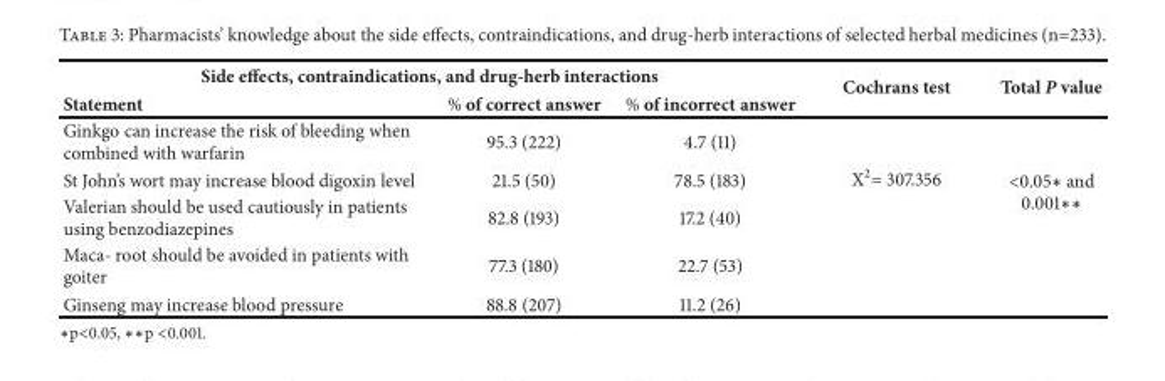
<table><thead><tr><td colspan="3">Side effects, contraindications, and drug-herb interactions</td><td rowspan="2">Cochrans test</td><td rowspan="2">Total P value</td></tr><tr><td>Statement</td><td>% of correct answer</td><td>% of incorrect answer</td></tr></thead><tbody><tr><td>Ginkgo can increase the risk of bleeding when combined with warfarin</td><td>95.3 (222)</td><td>4.7 (11)</td><td rowspan="4">X<sup>2</sup>= 307.356</td><td rowspan="5">&lt;0.05∗ and 0.001∗∗</td></tr><tr><td>St John’s wort may increase blood digoxin level</td><td>21.5 (50)</td><td>78.5 (183)</td></tr><tr><td>Valerian should be used cautiously in patients using benzodiazepines</td><td>82.8 (193)</td><td>17.2 (40)</td></tr><tr><td>Maca- root should be avoided in patients with goiter</td><td>77.3 (180)</td><td>22.7 (53)</td></tr><tr><td>Ginseng may increase blood pressure</td><td>88.8 (207)</td><td>11.2 (26)</td><td></td></tr></tbody></table>